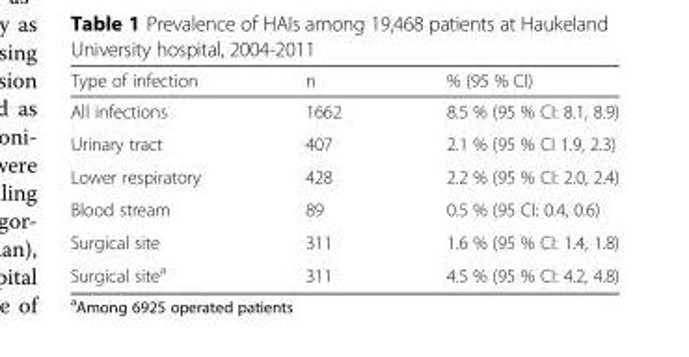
<table><thead><tr><td>Type of infection</td><td>n</td><td>% (95 % CI)</td></tr></thead><tbody><tr><td>All infections</td><td>1662</td><td>8.5 % (95 % CI: 8.1, 8.9)</td></tr><tr><td>Urinary tract</td><td>407</td><td>2.1 % (95 % CI 1.9, 2.3)</td></tr><tr><td>Lower respiratory</td><td>428</td><td>2.2 % (95 % CI: 2.0, 2.4)</td></tr><tr><td>Blood stream</td><td>89</td><td>0.5 % (95 CI: 0.4, 0.6)</td></tr><tr><td>Surgical site</td><td>311</td><td>1.6 % (95 % CI: 1.4, 1.8)</td></tr><tr><td>Surgical site<sup>a</sup></td><td>311</td><td>4.5 % (95 % CI: 4.2, 4.8)</td></tr></tbody></table>